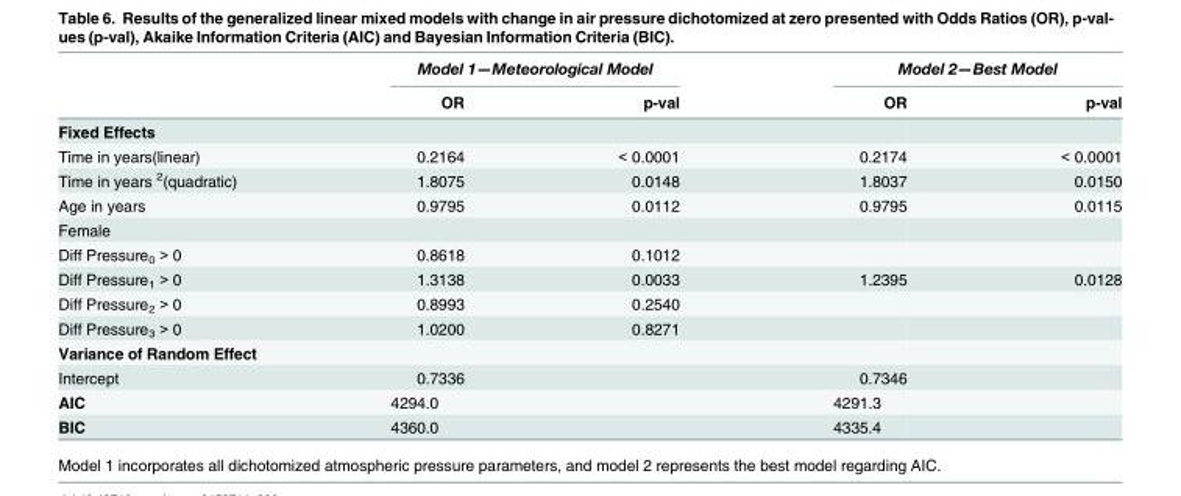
<table><thead><tr><td rowspan="2"></td><td colspan="2">Model 1—Meteorological Model</td><td colspan="2">Model 2—Best Model</td></tr><tr><td>OR</td><td>p-val</td><td>OR</td><td>p-val</td></tr></thead><tbody><tr><td colspan="5">Fixed Effects</td></tr><tr><td>Time in years(linear)</td><td>0.2164</td><td>&lt; 0.0001</td><td>0.2174</td><td>&lt; 0.0001</td></tr><tr><td>Time in years <sup>2</sup>(quadratic)</td><td>1.8075</td><td>0.0148</td><td>1.8037</td><td>0.0150</td></tr><tr><td>Age in years</td><td>0.9795</td><td>0.0112</td><td>0.9795</td><td>0.0115</td></tr><tr><td colspan="5">Female</td></tr><tr><td>Diff Pressure<sub>0</sub> &gt; 0</td><td>0.8618</td><td>0.1012</td><td></td><td></td></tr><tr><td>Diff Pressure<sub>1</sub> &gt; 0</td><td>1.3138</td><td>0.0033</td><td>1.2395</td><td>0.0128</td></tr><tr><td>Diff Pressure<sub>2</sub> &gt; 0</td><td>0.8993</td><td>0.2540</td><td></td><td></td></tr><tr><td>Diff Pressure<sub>3</sub> &gt; 0</td><td>1.0200</td><td>0.8271</td><td></td><td></td></tr><tr><td colspan="5">Variance of Random Effect</td></tr><tr><td>Intercept</td><td>0.7336</td><td></td><td>0.7346</td><td></td></tr><tr><td>AIC</td><td>4294.0</td><td></td><td>4291.3</td><td></td></tr><tr><td>BIC</td><td>4360.0</td><td></td><td>4335.4</td><td></td></tr></tbody></table>